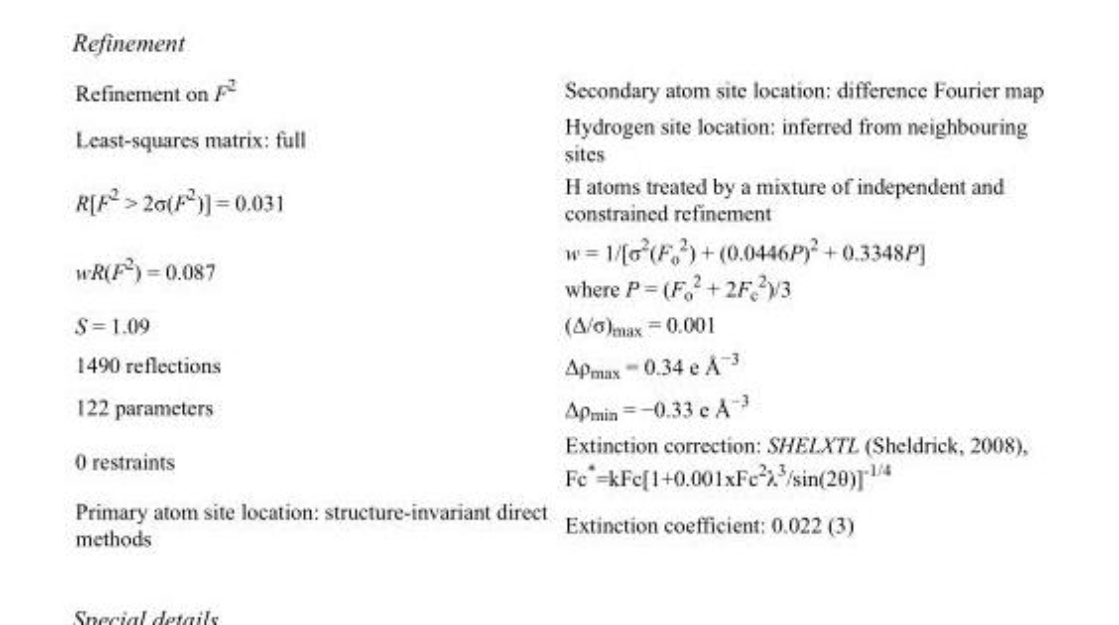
<table><tbody><tr><td>Refinement on F<sup>2</sup></td><td>Secondary atom site location: difference Fourier map</td></tr><tr><td>Least-squares matrix: full</td><td>Hydrogen site location: inferred from neighbouring sites</td></tr><tr><td>R[F<sup>2</sup> &gt; 2σ(F<sup>2</sup>)] = 0.031</td><td>H atoms treated by a mixture of independent and constrained refinement</td></tr><tr><td>wR(F<sup>2</sup>) = 0.087</td><td>w = 1/[σ<sup>2</sup>(F<sub>o</sub> <sup>2</sup>) + (0.0446P)<sup>2</sup> + 0.3348P] where P = (F<sub>o</sub> <sup>2</sup> + 2F<sub>c</sub> <sup>2</sup>)/3</td></tr><tr><td>S = 1.09</td><td>(Δ/σ)<sub>max</sub> = 0.001</td></tr><tr><td>1490 reflections</td><td>Δρ<sub>max</sub> = 0.34 e Å<sup>−3</sup></td></tr><tr><td>122 parameters</td><td>Δρ<sub>min</sub> = −0.33 e Å<sup>−3</sup></td></tr><tr><td>0 restraints</td><td>Extinction correction: SHELXTL (Sheldrick, 2008), Fc*=kFc[1+0.001xFc<sup>2</sup>λ<sup>3</sup>/sin(2θ)]<sup>-1/4</sup></td></tr><tr><td>Primary atom site location: structure-invariant direct methods</td><td>Extinction coefficient: 0.022 (3)</td></tr></tbody></table>